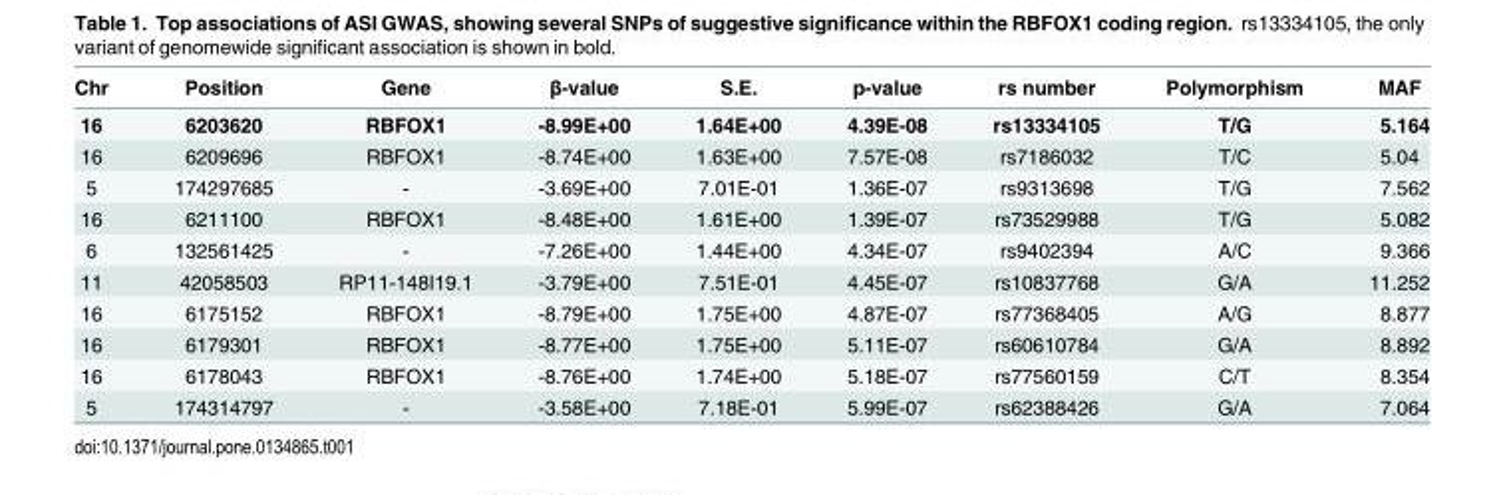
<table><thead><tr><td>Chr</td><td>Position</td><td>Gene</td><td>β-value</td><td>S.E.</td><td>p-value</td><td>rs number</td><td>Polymorphism</td><td>MAF</td></tr></thead><tbody><tr><td>16</td><td>6203620</td><td>RBFOX1</td><td>-8.99E+00</td><td>1.64E+00</td><td>4.39E-08</td><td>rs13334105</td><td>T/G</td><td>5.164</td></tr><tr><td>16</td><td>6209696</td><td>RBFOX1</td><td>-8.74E+00</td><td>1.63E+00</td><td>7.57E-08</td><td>rs7186032</td><td>T/C</td><td>5.04</td></tr><tr><td>5</td><td>174297685</td><td>-</td><td>-3.69E+00</td><td>7.01E-01</td><td>1.36E-07</td><td>rs9313698</td><td>T/G</td><td>7.562</td></tr><tr><td>16</td><td>6211100</td><td>RBFOX1</td><td>-8.48E+00</td><td>1.61E+00</td><td>1.39E-07</td><td>rs73529988</td><td>T/G</td><td>5.082</td></tr><tr><td>6</td><td>132561425</td><td>-</td><td>-7.26E+00</td><td>1.44E+00</td><td>4.34E-07</td><td>rs9402394</td><td>A/C</td><td>9.366</td></tr><tr><td>11</td><td>42058503</td><td>RP11-148I19.1</td><td>-3.79E+00</td><td>7.51E-01</td><td>4.45E-07</td><td>rs10837768</td><td>G/A</td><td>11.252</td></tr><tr><td>16</td><td>6175152</td><td>RBFOX1</td><td>-8.79E+00</td><td>1.75E+00</td><td>4.87E-07</td><td>rs77368405</td><td>A/G</td><td>8.877</td></tr><tr><td>16</td><td>6179301</td><td>RBFOX1</td><td>-8.77E+00</td><td>1.75E+00</td><td>5.11E-07</td><td>rs60610784</td><td>G/A</td><td>8.892</td></tr><tr><td>16</td><td>6178043</td><td>RBFOX1</td><td>-8.76E+00</td><td>1.74E+00</td><td>5.18E-07</td><td>rs77560159</td><td>C/T</td><td>8.354</td></tr><tr><td>5</td><td>174314797</td><td>-</td><td>-3.58E+00</td><td>7.18E-01</td><td>5.99E-07</td><td>rs62388426</td><td>G/A</td><td>7.064</td></tr></tbody></table>